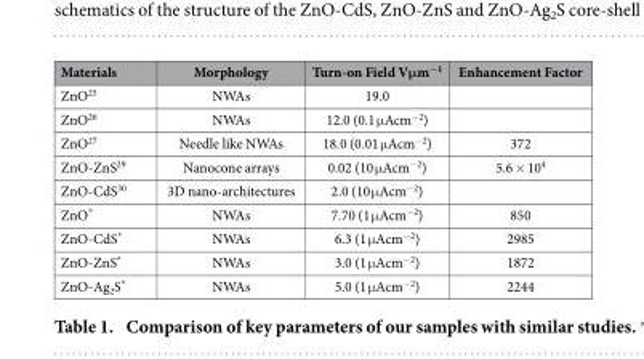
<table><thead><tr><td>Materials</td><td>Morphology</td><td>Turn-on Field Vμm<sup>−1</sup></td><td>Enhancement Factor</td></tr></thead><tbody><tr><td>ZnO<sup>25</sup></td><td>NWAs</td><td>19.0</td><td></td></tr><tr><td>ZnO<sup>26</sup></td><td>NWAs</td><td>12.0 (0.1 μ Acm<sup>−2</sup>)</td><td></td></tr><tr><td>ZnO<sup>27</sup></td><td>Needle like NWAs</td><td>18.0 (0.01 μ Acm<sup>−2</sup>)</td><td>372</td></tr><tr><td>ZnO-ZnS<sup>29</sup></td><td>Nanocone arrays</td><td>0.02 (10 μ Acm<sup>−2</sup>)</td><td>5.6 × 10<sup>4</sup></td></tr><tr><td>ZnO-CdS<sup>30</sup></td><td>3D nano-architectures</td><td>2.0 (10 μ Acm<sup>−2</sup>)</td><td></td></tr><tr><td>ZnO*</td><td>NWAs</td><td>7.70 (1 μ Acm<sup>−2</sup>)</td><td>850</td></tr><tr><td>ZnO-CdS*</td><td>NWAs</td><td>6.3 (1 μ Acm<sup>−2</sup>)</td><td>2985</td></tr><tr><td>ZnO-ZnS*</td><td>NWAs</td><td>3.0 (1 μ Acm<sup>−2</sup>)</td><td>1872</td></tr><tr><td>ZnO-Ag<sub>2</sub>S*</td><td>NWAs</td><td>5.0 (1 μ Acm<sup>−2</sup>)</td><td>2244</td></tr></tbody></table>